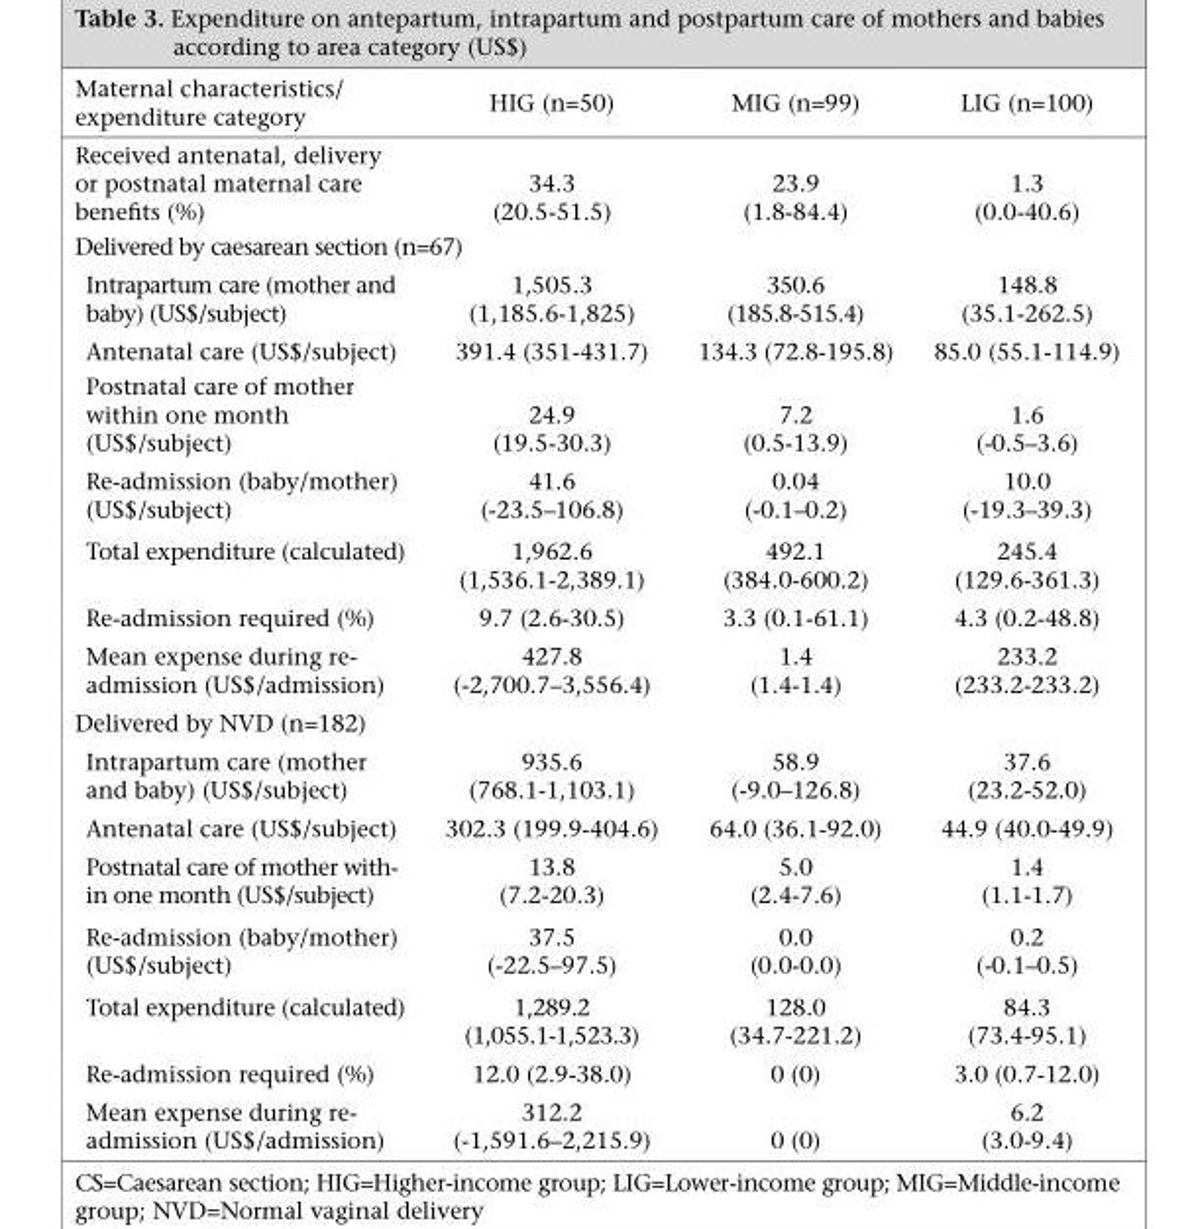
<table><thead><tr><td>Maternal characteristics/ expenditure category</td><td>HIG (n=50)</td><td>MIG (n=99)</td><td>LIG (n=100)</td></tr></thead><tbody><tr><td>Received antenatal, delivery or postnatal maternal care benefits (%)</td><td>34.3 (20.5-51.5)</td><td>23.9 (1.8-84.4)</td><td>1.3 (0.0-40.6)</td></tr><tr><td colspan="4">Delivered by caesarean section (n=67)</td></tr><tr><td>Intrapartum care (mother and baby) (US$/subject)</td><td>1,505.3 (1,185.6-1,825)</td><td>350.6 (185.8-515.4)</td><td>148.8 (35.1-262.5)</td></tr><tr><td>Antenatal care (US$/subject)</td><td>391.4 (351-431.7)</td><td>134.3 (72.8-195.8)</td><td>85.0 (55.1-114.9)</td></tr><tr><td>Postnatal care of mother within one month (US$/subject)</td><td>24.9 (19.5-30.3)</td><td>7.2 (0.5-13.9)</td><td>1.6 (-0.5–3.6)</td></tr><tr><td>Re-admission (baby/mother) (US$/subject)</td><td>41.6 (-23.5–106.8)</td><td>0.04 (-0.1–0.2)</td><td>10.0 (-19.3–39.3)</td></tr><tr><td>Total expenditure (calculated)</td><td>1,962.6 (1,536.1-2,389.1)</td><td>492.1 (384.0-600.2)</td><td>245.4 (129.6-361.3)</td></tr><tr><td>Re-admission required (%)</td><td>9.7 (2.6-30.5)</td><td>3.3 (0.1-61.1)</td><td>4.3 (0.2-48.8)</td></tr><tr><td>Mean expense during re- admission (US$/admission)</td><td>427.8 (-2,700.7–3,556.4)</td><td>1.4 (1.4-1.4)</td><td>233.2 (233.2-233.2)</td></tr><tr><td colspan="4">Delivered by NVD (n=182)</td></tr><tr><td>Intrapartum care (mother and baby) (US$/subject)</td><td>935.6 (768.1-1,103.1)</td><td>58.9 (-9.0–126.8)</td><td>37.6 (23.2-52.0)</td></tr><tr><td>Antenatal care (US$/subject)</td><td>302.3 (199.9-404.6)</td><td>64.0 (36.1-92.0)</td><td>44.9 (40.0-49.9)</td></tr><tr><td>Postnatal care of mother with- in one month (US$/subject)</td><td>13.8 (7.2-20.3)</td><td>5.0 (2.4-7.6)</td><td>1.4 (1.1-1.7)</td></tr><tr><td>Re-admission (baby/mother) (US$/subject)</td><td>37.5 (-22.5–97.5)</td><td>0.0 (0.0-0.0)</td><td>0.2 (-0.1–0.5)</td></tr><tr><td>Total expenditure (calculated)</td><td>1,289.2 (1,055.1-1,523.3)</td><td>128.0 (34.7-221.2)</td><td>84.3 (73.4-95.1)</td></tr><tr><td>Re-admission required (%)</td><td>12.0 (2.9-38.0)</td><td>0 (0)</td><td>3.0 (0.7-12.0)</td></tr><tr><td>Mean expense during re- admission (US$/admission)</td><td>312.2 (-1,591.6–2,215.9)</td><td>0 (0)</td><td>6.2 (3.0-9.4)</td></tr></tbody></table>